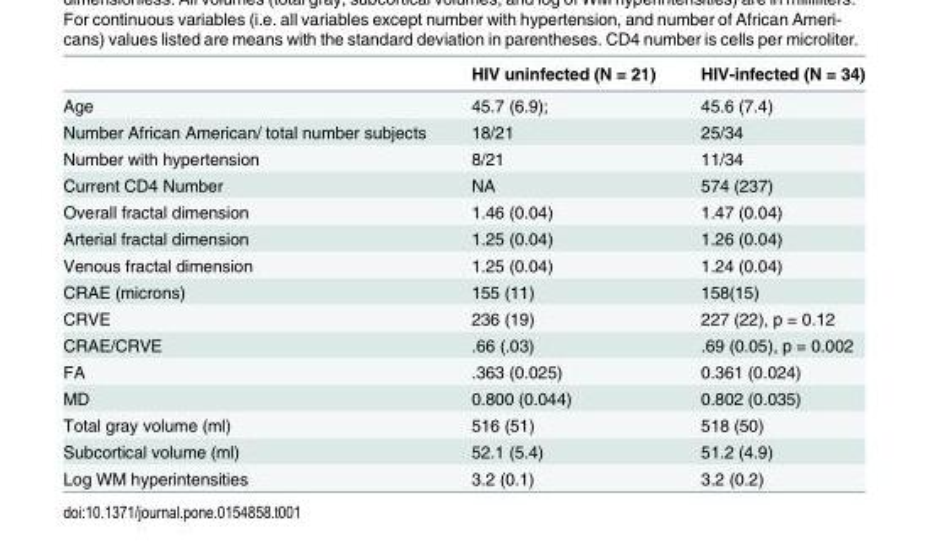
<table><thead><tr><td></td><td>HIV uninfected (N = 21)</td><td>HIV-infected (N = 34)</td></tr></thead><tbody><tr><td>Age</td><td>45.7 (6.9);</td><td>45.6 (7.4)</td></tr><tr><td>Number African American/ total number subjects</td><td>18/21</td><td>25/34</td></tr><tr><td>Number with hypertension</td><td>8/21</td><td>11/34</td></tr><tr><td>Current CD4 Number</td><td>NA</td><td>574 (237)</td></tr><tr><td>Overall fractal dimension</td><td>1.46 (0.04)</td><td>1.47 (0.04)</td></tr><tr><td>Arterial fractal dimension</td><td>1.25 (0.04)</td><td>1.26 (0.04)</td></tr><tr><td>Venous fractal dimension</td><td>1.25 (0.04)</td><td>1.24 (0.04)</td></tr><tr><td>CRAE (microns)</td><td>155 (11)</td><td>158(15)</td></tr><tr><td>CRVE</td><td>236 (19)</td><td>227 (22), p = 0.12</td></tr><tr><td>CRAE/CRVE</td><td>.66 (.03)</td><td>.69 (0.05), p = 0.002</td></tr><tr><td>FA</td><td>.363 (0.025)</td><td>0.361 (0.024)</td></tr><tr><td>MD</td><td>0.800 (0.044)</td><td>0.802 (0.035)</td></tr><tr><td>Total gray volume (ml)</td><td>516 (51)</td><td>518 (50)</td></tr><tr><td>Subcortical volume (ml)</td><td>52.1 (5.4)</td><td>51.2 (4.9)</td></tr><tr><td>Log WM hyperintensities</td><td>3.2 (0.1)</td><td>3.2 (0.2)</td></tr></tbody></table>